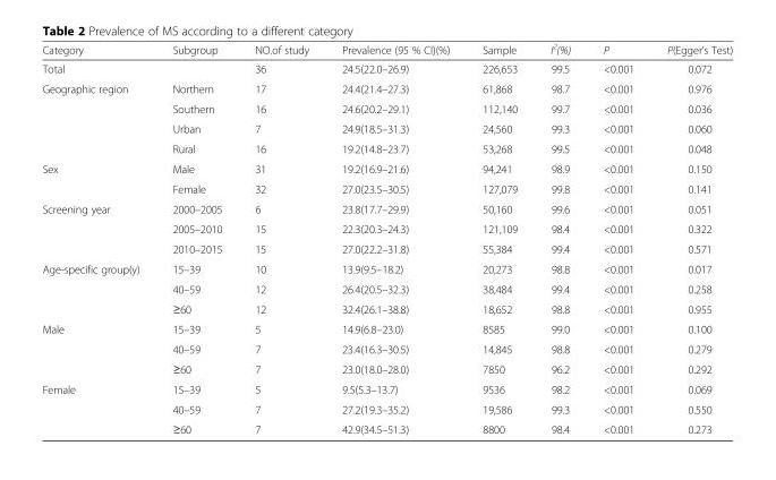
<table><thead><tr><td>Category</td><td>Subgroup</td><td>NO.of study</td><td>Prevalence (95 % CI)(%)</td><td>Sample</td><td>I<sup>2</sup>(%)</td><td>P</td><td>P(Egger’s Test)</td></tr></thead><tbody><tr><td>Total</td><td></td><td>36</td><td>24.5(22.0–26.9)</td><td>226,653</td><td>99.5</td><td>&lt;0.001</td><td>0.072</td></tr><tr><td rowspan="4">Geographic region</td><td>Northern</td><td>17</td><td>24.4(21.4–27.3)</td><td>61,868</td><td>98.7</td><td>&lt;0.001</td><td>0.976</td></tr><tr><td>Southern</td><td>16</td><td>24.6(20.2–29.1)</td><td>112,140</td><td>99.7</td><td>&lt;0.001</td><td>0.036</td></tr><tr><td>Urban</td><td>7</td><td>24.9(18.5–31.3)</td><td>24,560</td><td>99.3</td><td>&lt;0.001</td><td>0.060</td></tr><tr><td>Rural</td><td>16</td><td>19.2(14.8–23.7)</td><td>53,268</td><td>99.5</td><td>&lt;0.001</td><td>0.048</td></tr><tr><td rowspan="2">Sex</td><td>Male</td><td>31</td><td>19.2(16.9–21.6)</td><td>94,241</td><td>98.9</td><td>&lt;0.001</td><td>0.150</td></tr><tr><td>Female</td><td>32</td><td>27.0(23.5–30.5)</td><td>127,079</td><td>99.8</td><td>&lt;0.001</td><td>0.141</td></tr><tr><td rowspan="3">Screening year</td><td>2000–2005</td><td>6</td><td>23.8(17.7–29.9)</td><td>50,160</td><td>99.6</td><td>&lt;0.001</td><td>0.051</td></tr><tr><td>2005–2010</td><td>15</td><td>22.3(20.3–24.3)</td><td>121,109</td><td>98.4</td><td>&lt;0.001</td><td>0.322</td></tr><tr><td>2010–2015</td><td>15</td><td>27.0(22.2–31.8)</td><td>55,384</td><td>99.4</td><td>&lt;0.001</td><td>0.571</td></tr><tr><td rowspan="3">Age-specific group(y)</td><td>15–39</td><td>10</td><td>13.9(9.5–18.2)</td><td>20,273</td><td>98.8</td><td>&lt;0.001</td><td>0.017</td></tr><tr><td>40–59</td><td>12</td><td>26.4(20.5–32.3)</td><td>38,484</td><td>99.4</td><td>&lt;0.001</td><td>0.258</td></tr><tr><td>≥60</td><td>12</td><td>32.4(26.1–38.8)</td><td>18,652</td><td>98.8</td><td>&lt;0.001</td><td>0.955</td></tr><tr><td rowspan="3">Male</td><td>15–39</td><td>5</td><td>14.9(6.8–23.0)</td><td>8585</td><td>99.0</td><td>&lt;0.001</td><td>0.100</td></tr><tr><td>40–59</td><td>7</td><td>23.4(16.3–30.5)</td><td>14,845</td><td>98.8</td><td>&lt;0.001</td><td>0.279</td></tr><tr><td>≥60</td><td>7</td><td>23.0(18.0–28.0)</td><td>7850</td><td>96.2</td><td>&lt;0.001</td><td>0.292</td></tr><tr><td rowspan="3">Female</td><td>15–39</td><td>5</td><td>9.5(5.3–13.7)</td><td>9536</td><td>98.2</td><td>&lt;0.001</td><td>0.069</td></tr><tr><td>40–59</td><td>7</td><td>27.2(19.3–35.2)</td><td>19,586</td><td>99.3</td><td>&lt;0.001</td><td>0.550</td></tr><tr><td>≥60</td><td>7</td><td>42.9(34.5–51.3)</td><td>8800</td><td>98.4</td><td>&lt;0.001</td><td>0.273</td></tr></tbody></table>